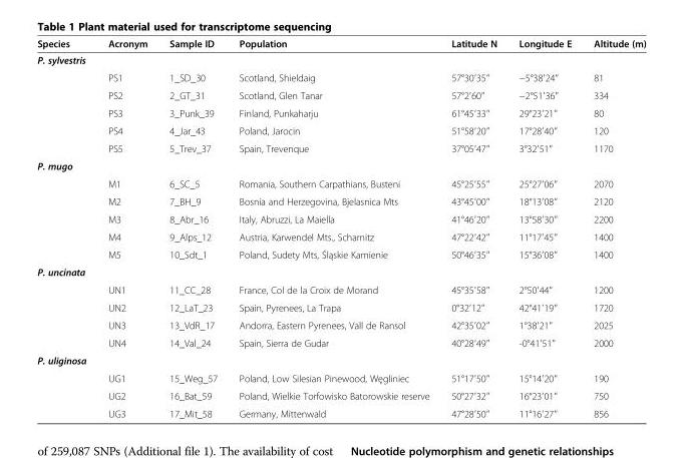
<table><thead><tr><td>Species</td><td>Acronym</td><td>Sample ID</td><td>Population</td><td>Latitude N</td><td>Longitude E</td><td>Altitude (m)</td></tr></thead><tbody><tr><td colspan="7">P. sylvestris</td></tr><tr><td></td><td>PS1</td><td>1_SD_30</td><td>Scotland, Shieldaig</td><td>57°30′35″</td><td>−5°38′24″</td><td>81</td></tr><tr><td></td><td>PS2</td><td>2_GT_31</td><td>Scotland, Glen Tanar</td><td>57°2′60″</td><td>−2°51′36″</td><td>334</td></tr><tr><td></td><td>PS3</td><td>3_Punk_39</td><td>Finland, Punkaharju</td><td>61°45′33″</td><td>29°23′21″</td><td>80</td></tr><tr><td></td><td>PS4</td><td>4_Jar_43</td><td>Poland, Jarocin</td><td>51°58′20″</td><td>17°28′40″</td><td>120</td></tr><tr><td></td><td>PS5</td><td>5_Trev_37</td><td>Spain, Trevenque</td><td>37°05′47″</td><td>3°32′51″</td><td>1170</td></tr><tr><td colspan="7">P. mugo</td></tr><tr><td></td><td>M1</td><td>6_SC_5</td><td>Romania, Southern Carpathians, Busteni</td><td>45°25′55″</td><td>25°27′06″</td><td>2070</td></tr><tr><td></td><td>M2</td><td>7_BH_9</td><td>Bosnia and Herzegovina, Bjelasnica Mts</td><td>43°45′00″</td><td>18°13′08″</td><td>2120</td></tr><tr><td></td><td>M3</td><td>8_Abr_16</td><td>Italy, Abruzzi, La Maiella</td><td>41°46′20″</td><td>13°58′30″</td><td>2200</td></tr><tr><td></td><td>M4</td><td>9_Alps_12</td><td>Austria, Karwendel Mts., Scharnitz</td><td>47°22′42″</td><td>11°17′45″</td><td>1400</td></tr><tr><td></td><td>M5</td><td>10_Sdt_1</td><td>Poland, Sudety Mts, Śląskie Kamienie</td><td>50°46′35″</td><td>15°36′08″</td><td>1400</td></tr><tr><td colspan="7">P. uncinata</td></tr><tr><td></td><td>UN1</td><td>11_CC_28</td><td>France, Col de la Croix de Morand</td><td>45°35′58″</td><td>2°50′44″</td><td>1200</td></tr><tr><td></td><td>UN2</td><td>12_LaT_23</td><td>Spain, Pyrenees, La Trapa</td><td>0°32′12″</td><td>42°41′19″</td><td>1720</td></tr><tr><td></td><td>UN3</td><td>13_VdR_17</td><td>Andorra, Eastern Pyrenees, Vall de Ransol</td><td>42°35′02″</td><td>1°38′21″</td><td>2025</td></tr><tr><td></td><td>UN4</td><td>14_Val_24</td><td>Spain, Sierra de Gudar</td><td>40°28′49″</td><td>-0°41′51″</td><td>2000</td></tr><tr><td colspan="7">P. uliginosa</td></tr><tr><td></td><td>UG1</td><td>15_Weg_57</td><td>Poland, Low Silesian Pinewood, Węgliniec</td><td>51°17′50″</td><td>15°14′20″</td><td>190</td></tr><tr><td></td><td>UG2</td><td>16_Bat_59</td><td>Poland, Wielkie Torfowisko Batorowskie reserve</td><td>50°27′32″</td><td>16°23′01″</td><td>750</td></tr><tr><td></td><td>UG3</td><td>17_Mit_58</td><td>Germany, Mittenwald</td><td>47°28′50″</td><td>11°16′27″</td><td>856</td></tr></tbody></table>